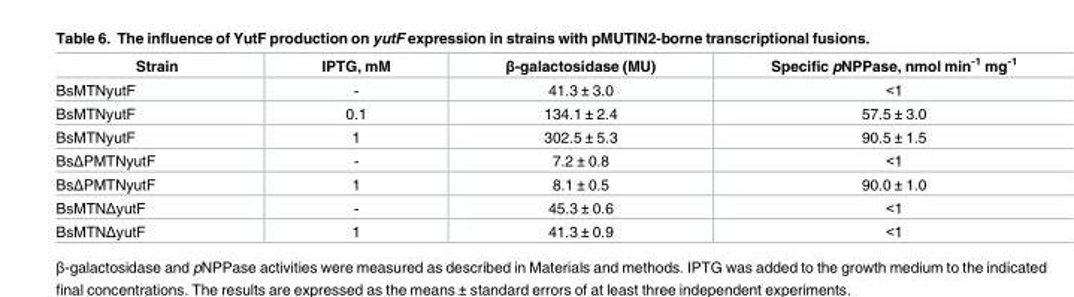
<table><thead><tr><td>Strain</td><td>IPTG, mM</td><td>β-galactosidase (MU)</td><td>Specific pNPPase, nmol min<sup>-1</sup> mg<sup>-1</sup></td></tr></thead><tbody><tr><td>BsMTNyutF</td><td>-</td><td>41.3 ± 3.0</td><td>&lt;1</td></tr><tr><td>BsMTNyutF</td><td>0.1</td><td>134.1 ± 2.4</td><td>57.5 ± 3.0</td></tr><tr><td>BsMTNyutF</td><td>1</td><td>302.5 ± 5.3</td><td>90.5 ± 1.5</td></tr><tr><td>BsΔPMTNyutF</td><td>-</td><td>7.2 ± 0.8</td><td>&lt;1</td></tr><tr><td>BsΔPMTNyutF</td><td>1</td><td>8.1 ± 0.5</td><td>90.0 ± 1.0</td></tr><tr><td>BsMTNΔyutF</td><td>-</td><td>45.3 ± 0.6</td><td>&lt;1</td></tr><tr><td>BsMTNΔyutF</td><td>1</td><td>41.3 ± 0.9</td><td>&lt;1</td></tr></tbody></table>